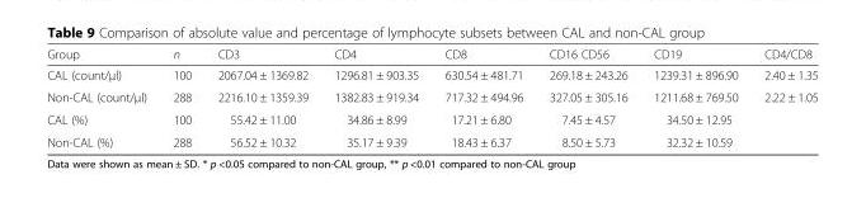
<table><thead><tr><td>Group</td><td>n</td><td>CD3</td><td>CD4</td><td>CD8</td><td>CD16 CD56</td><td>CD19</td><td>CD4/CD8</td></tr></thead><tbody><tr><td>CAL (count/μl)</td><td>100</td><td>2067.04 ± 1369.82</td><td>1296.81 ± 903.35</td><td>630.54 ± 481.71</td><td>269.18 ± 243.26</td><td>1239.31 ± 896.90</td><td>2.40 ± 1.35</td></tr><tr><td>Non-CAL (count/μl)</td><td>288</td><td>2216.10 ± 1359.39</td><td>1382.83 ± 919.34</td><td>717.32 ± 494.96</td><td>327.05 ± 305.16</td><td>1211.68 ± 769.50</td><td>2.22 ± 1.05</td></tr><tr><td>CAL (%)</td><td>100</td><td>55.42 ± 11.00</td><td>34.86 ± 8.99</td><td>17.21 ± 6.80</td><td>7.45 ± 4.57</td><td>34.50 ± 12.95</td><td></td></tr><tr><td>Non-CAL (%)</td><td>288</td><td>56.52 ± 10.32</td><td>35.17 ± 9.39</td><td>18.43 ± 6.37</td><td>8.50 ± 5.73</td><td>32.32 ± 10.59</td><td></td></tr></tbody></table>